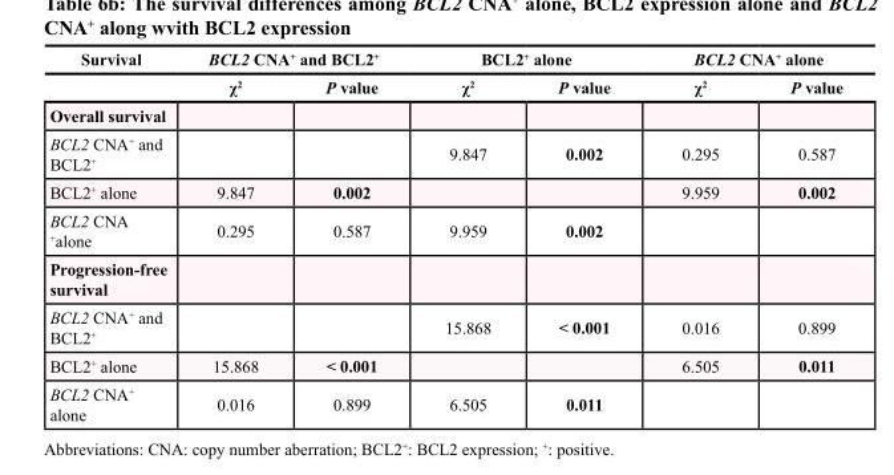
<table><thead><tr><td rowspan="2">Survival</td><td colspan="2">BCL2 CNA<sup>+</sup> and BCL2<sup>+</sup></td><td colspan="2">BCL2<sup>+</sup> alone</td><td colspan="2">BCL2 CNA<sup>+</sup> alone</td></tr><tr><td>χ<sup>2</sup></td><td>P value</td><td>χ<sup>2</sup></td><td>P value</td><td>χ<sup>2</sup></td><td>P value</td></tr></thead><tbody><tr><td colspan="7">Overall survival</td></tr><tr><td>BCL2 CNA<sup>+</sup> and BCL2<sup>+</sup></td><td></td><td></td><td>9.847</td><td>0.002</td><td>0.295</td><td>0.587</td></tr><tr><td>BCL2<sup>+</sup> alone</td><td>9.847</td><td>0.002</td><td></td><td></td><td>9.959</td><td>0.002</td></tr><tr><td>BCL2 CNA <sup>+</sup>alone</td><td>0.295</td><td>0.587</td><td>9.959</td><td>0.002</td><td></td><td></td></tr><tr><td colspan="7">Progression-free survival</td></tr><tr><td>BCL2 CNA<sup>+</sup> and BCL2<sup>+</sup></td><td></td><td></td><td>15.868</td><td>&lt; 0.001</td><td>0.016</td><td>0.899</td></tr><tr><td>BCL2<sup>+</sup> alone</td><td>15.868</td><td>&lt; 0.001</td><td></td><td></td><td>6.505</td><td>0.011</td></tr><tr><td>BCL2 CNA<sup>+</sup> alone</td><td>0.016</td><td>0.899</td><td>6.505</td><td>0.011</td><td></td><td></td></tr></tbody></table>